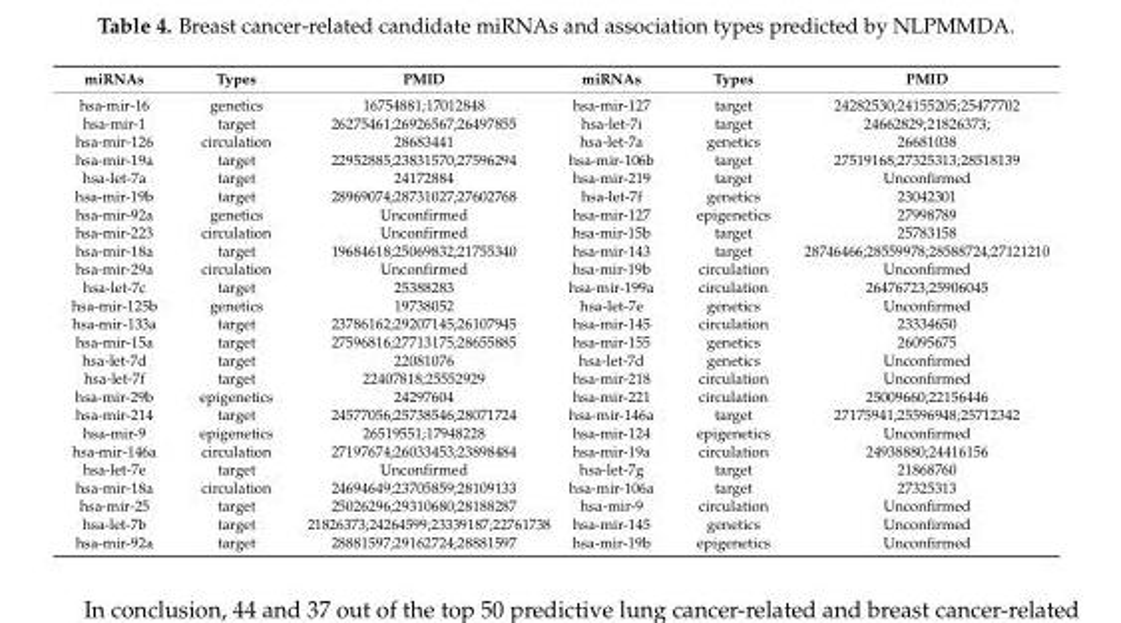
<table><thead><tr><td>miRNAs</td><td>Types</td><td>PMID</td><td>miRNAs</td><td>Types</td><td>PMID</td></tr></thead><tbody><tr><td>hsa-mir-16</td><td>genetics</td><td>16754881;17012848</td><td>hsa-mir-127</td><td>target</td><td>24282530;24155205;25477702</td></tr><tr><td>hsa-mir-1</td><td>target</td><td>26275461;26926567;26497855</td><td>hsa-let-7i</td><td>target</td><td>24662829;21826373;</td></tr><tr><td>hsa-mir-126</td><td>circulation</td><td>28683441</td><td>hsa-let-7a</td><td>genetics</td><td>26681038</td></tr><tr><td>hsa-mir-19a</td><td>target</td><td>22952885;23831570;27596294</td><td>hsa-mir-106b</td><td>target</td><td>27519168;27325313;28518139</td></tr><tr><td>hsa-let-7a</td><td>target</td><td>24172884</td><td>hsa-mir-219</td><td>target</td><td>Unconfirmed</td></tr><tr><td>hsa-mir-19b</td><td>target</td><td>28969074;28731027;27602768</td><td>hsa-let-7f</td><td>genetics</td><td>23042301</td></tr><tr><td>hsa-mir-92a</td><td>genetics</td><td>Unconfirmed</td><td>hsa-mir-127</td><td>epigenetics</td><td>27998789</td></tr><tr><td>hsa-mir-223</td><td>circulation</td><td>Unconfirmed</td><td>hsa-mir-15b</td><td>target</td><td>25783158</td></tr><tr><td>hsa-mir-18a</td><td>target</td><td>19684618;25069832;21755340</td><td>hsa-mir-143</td><td>target</td><td>28746466;28559978;28588724;27121210</td></tr><tr><td>hsa-mir-29a</td><td>circulation</td><td>Unconfirmed</td><td>hsa-mir-19b</td><td>circulation</td><td>Unconfirmed</td></tr><tr><td>hsa-let-7c</td><td>target</td><td>25388283</td><td>hsa-mir-199a</td><td>circulation</td><td>26476723;25906045</td></tr><tr><td>hsa-mir-125b</td><td>genetics</td><td>19738052</td><td>hsa-let-7e</td><td>genetics</td><td>Unconfirmed</td></tr><tr><td>hsa-mir-133a</td><td>target</td><td>23786162;29207145;26107945</td><td>hsa-mir-145</td><td>circulation</td><td>23334650</td></tr><tr><td>hsa-mir-15a</td><td>target</td><td>27596816;27713175;28655885</td><td>hsa-mir-155</td><td>genetics</td><td>26095675</td></tr><tr><td>hsa-let-7d</td><td>target</td><td>22081076</td><td>hsa-let-7d</td><td>genetics</td><td>Unconfirmed</td></tr><tr><td>hsa-let-7f</td><td>target</td><td>22407818;25552929</td><td>hsa-mir-218</td><td>circulation</td><td>Unconfirmed</td></tr><tr><td>hsa-mir-29b</td><td>epigenetics</td><td>24297604</td><td>hsa-mir-221</td><td>circulation</td><td>25009660;22156446</td></tr><tr><td>hsa-mir-214</td><td>target</td><td>24577056;25738546;28071724</td><td>hsa-mir-146a</td><td>target</td><td>27175941;25596948;25712342</td></tr><tr><td>hsa-mir-9</td><td>epigenetics</td><td>26519551;17948228</td><td>hsa-mir-124</td><td>epigenetics</td><td>Unconfirmed</td></tr><tr><td>hsa-mir-146a</td><td>circulation</td><td>27197674;26033453;23898484</td><td>hsa-mir-19a</td><td>circulation</td><td>24938880;24416156</td></tr><tr><td>hsa-let-7e</td><td>target</td><td>Unconfirmed</td><td>hsa-let-7g</td><td>target</td><td>21868760</td></tr><tr><td>hsa-mir-18a</td><td>circulation</td><td>24694649;23705859;28109133</td><td>hsa-mir-106a</td><td>target</td><td>27325313</td></tr><tr><td>hsa-mir-25</td><td>target</td><td>25026296;29310680;28188287</td><td>hsa-mir-9</td><td>circulation</td><td>Unconfirmed</td></tr><tr><td>hsa-let-7b</td><td>target</td><td>21826373;24264599;23339187;22761738</td><td>hsa-mir-145</td><td>genetics</td><td>Unconfirmed</td></tr><tr><td>hsa-mir-92a</td><td>target</td><td>28881597;29162724;28881597</td><td>hsa-mir-19b</td><td>epigenetics</td><td>Unconfirmed</td></tr></tbody></table>